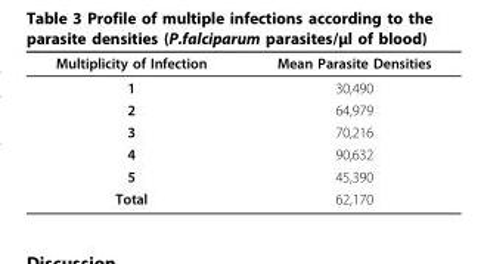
<table><thead><tr><td>Multiplicity of Infection</td><td>Mean Parasite Densities</td></tr></thead><tbody><tr><td>1</td><td>30,490</td></tr><tr><td>2</td><td>64,979</td></tr><tr><td>3</td><td>70,216</td></tr><tr><td>4</td><td>90,632</td></tr><tr><td>5</td><td>45,390</td></tr><tr><td>Total</td><td>62,170</td></tr></tbody></table>